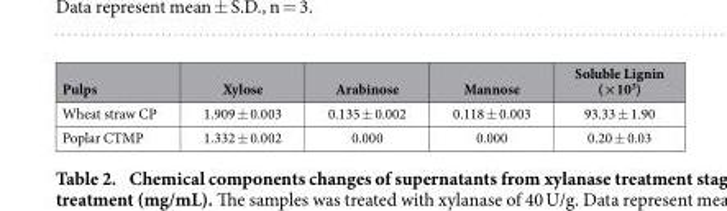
<table><thead><tr><td>Pulps</td><td>Xylose</td><td>Arabinose</td><td>Mannose</td><td>Soluble Lignin (×10<sup>3</sup>)</td></tr></thead><tbody><tr><td>Wheat straw CP</td><td>1.909 ± 0.003</td><td>0.135 ± 0.002</td><td>0.118 ± 0.003</td><td>93.33 ± 1.90</td></tr><tr><td>Poplar CTMP</td><td>1.332 ± 0.002</td><td>0.000</td><td>0.000</td><td>0.20 ± 0.03</td></tr></tbody></table>